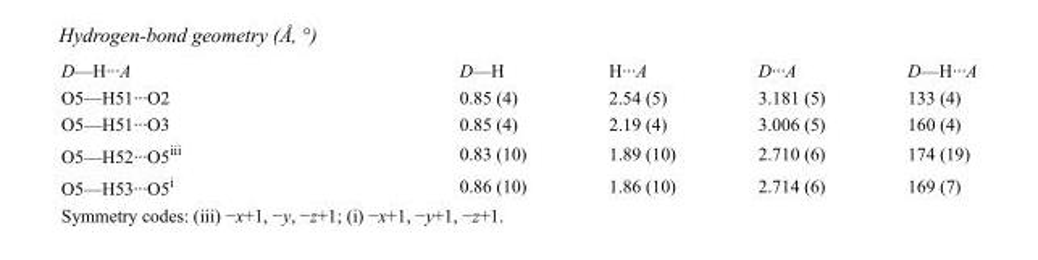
<table><tbody><tr><td>D—H···A</td><td>D—H</td><td>H···A</td><td>D···A</td><td>D—H···A</td></tr><tr><td>O5—H51···O2</td><td>0.85 (4)</td><td>2.54 (5)</td><td>3.181 (5)</td><td>133 (4)</td></tr><tr><td>O5—H51···O3</td><td>0.85 (4)</td><td>2.19 (4)</td><td>3.006 (5)</td><td>160 (4)</td></tr><tr><td>O5—H52···O5<sup>iii</sup></td><td>0.83 (10)</td><td>1.89 (10)</td><td>2.710 (6)</td><td>174 (19)</td></tr><tr><td>O5—H53···O5<sup>i</sup></td><td>0.86 (10)</td><td>1.86 (10)</td><td>2.714 (6)</td><td>169 (7)</td></tr></tbody></table>